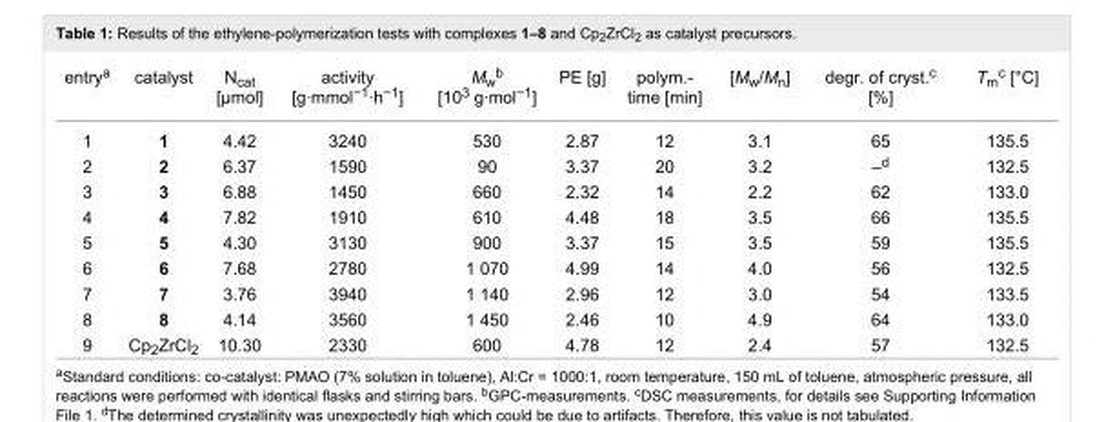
<table><tbody><tr><td>entry<sup>a</sup></td><td>catalyst</td><td>N<sub>cat</sub> [μmol]</td><td>activity [g·mmol<sup>−1</sup>·h<sup>−1</sup>]</td><td>M<sub>w</sub><sup>b</sup> [10<sup>3</sup> g·mol<sup>−1</sup>]</td><td>PE [g]</td><td>polym.- time [min]</td><td>[M<sub>w</sub>/M<sub>n</sub>]</td><td>degr. of cryst.<sup>c</sup> [%]</td><td>T<sub>m</sub><sup>c</sup> [°C]</td></tr><tr><td>1</td><td>1</td><td>4.42</td><td>3240</td><td>530</td><td>2.87</td><td>12</td><td>3.1</td><td>65</td><td>135.5</td></tr><tr><td>2</td><td>2</td><td>6.37</td><td>1590</td><td>90</td><td>3.37</td><td>20</td><td>3.2</td><td>–<sup>d</sup></td><td>132.5</td></tr><tr><td>3</td><td>3</td><td>6.88</td><td>1450</td><td>660</td><td>2.32</td><td>14</td><td>2.2</td><td>62</td><td>133.0</td></tr><tr><td>4</td><td>4</td><td>7.82</td><td>1910</td><td>610</td><td>4.48</td><td>18</td><td>3.5</td><td>66</td><td>135.5</td></tr><tr><td>5</td><td>5</td><td>4.30</td><td>3130</td><td>900</td><td>3.37</td><td>15</td><td>3.5</td><td>59</td><td>135.5</td></tr><tr><td>6</td><td>6</td><td>7.68</td><td>2780</td><td>1 070</td><td>4.99</td><td>14</td><td>4.0</td><td>56</td><td>132.5</td></tr><tr><td>7</td><td>7</td><td>3.76</td><td>3940</td><td>1 140</td><td>2.96</td><td>12</td><td>3.0</td><td>54</td><td>133.5</td></tr><tr><td>8</td><td>8</td><td>4.14</td><td>3560</td><td>1 450</td><td>2.46</td><td>10</td><td>4.9</td><td>64</td><td>133.0</td></tr><tr><td>9</td><td>Cp<sub>2</sub>ZrCl<sub>2</sub></td><td>10.30</td><td>2330</td><td>600</td><td>4.78</td><td>12</td><td>2.4</td><td>57</td><td>132.5</td></tr></tbody></table>